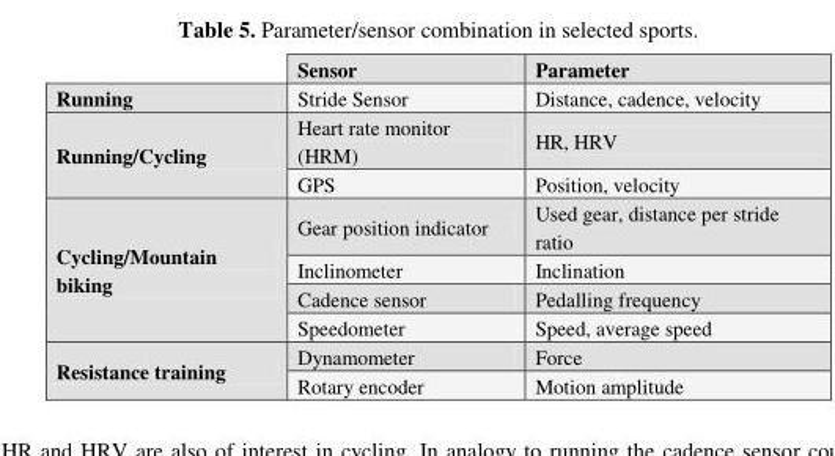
<table><thead><tr><td></td><td>Sensor</td><td>Parameter</td></tr></thead><tbody><tr><td>Running</td><td>Stride Sensor</td><td>Distance, cadence, velocity</td></tr><tr><td rowspan="2">Running/Cycling</td><td>Heart rate monitor (HRM)</td><td>HR, HRV</td></tr><tr><td>GPS</td><td>Position, velocity</td></tr><tr><td rowspan="4">Cycling/Mountain biking</td><td>Gear position indicator</td><td>Used gear, distance per stride ratio</td></tr><tr><td>Inclinometer</td><td>Inclination</td></tr><tr><td>Cadence sensor</td><td>Pedalling frequency</td></tr><tr><td>Speedometer</td><td>Speed, average speed</td></tr><tr><td rowspan="2">Resistance training</td><td>Dynamometer</td><td>Force</td></tr><tr><td>Rotary encoder</td><td>Motion amplitude</td></tr></tbody></table>